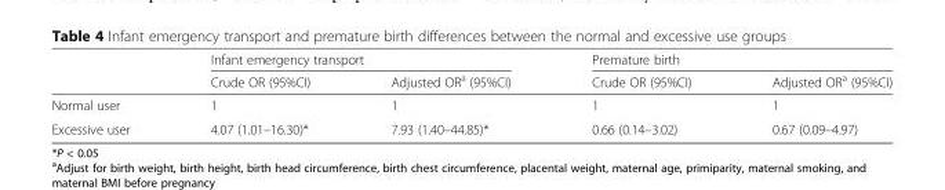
<table><thead><tr><td rowspan="2"></td><td colspan="2">Infant emergency transport</td><td colspan="2">Premature birth</td></tr><tr><td>Crude OR (95%CI)</td><td>Adjusted OR<sup>a</sup> (95%CI)</td><td>Crude OR (95%CI)</td><td>Adjusted OR<sup>a</sup> (95%CI)</td></tr></thead><tbody><tr><td>Normal user</td><td>1</td><td>1</td><td>1</td><td>1</td></tr><tr><td>Excessive user</td><td>4.07 (1.01–16.30)*</td><td>7.93 (1.40–44.85)*</td><td>0.66 (0.14–3.02)</td><td>0.67 (0.09–4.97)</td></tr></tbody></table>